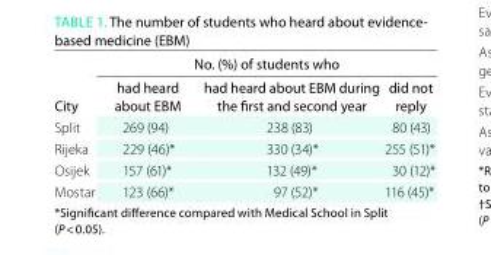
<table><thead><tr><td rowspan="2">City</td><td colspan="3">No. (%) of students who</td></tr><tr><td>had heard about eBM</td><td>had heard about eBM during the first and second year</td><td>did not reply</td></tr></thead><tbody><tr><td>Split</td><td>269 (94)</td><td>238 (83)</td><td>80 (43)</td></tr><tr><td>Rijeka</td><td>229 (46)*</td><td>330 (34)*</td><td>255 (51)*</td></tr><tr><td>Osijek</td><td>157 (61)*</td><td>132 (49)*</td><td>30 (12)*</td></tr><tr><td>Mostar</td><td>123 (66)*</td><td>97 (52)*</td><td>116 (45)*</td></tr></tbody></table>